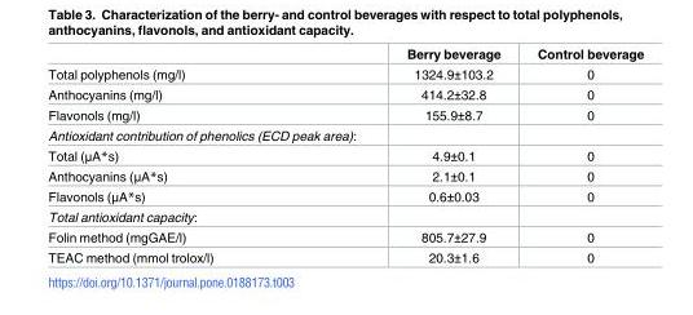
<table><thead><tr><td></td><td>Berry beverage</td><td>Control beverage</td></tr></thead><tbody><tr><td>Total polyphenols (mg/l)</td><td>1324.9±103.2</td><td>0</td></tr><tr><td>Anthocyanins (mg/l)</td><td>414.2±32.8</td><td>0</td></tr><tr><td>Flavonols (mg/l)</td><td>155.9±8.7</td><td>0</td></tr><tr><td colspan="3">Antioxidant contribution of phenolics (ECD peak area):</td></tr><tr><td>Total (μA*s)</td><td>4.9±0.1</td><td>0</td></tr><tr><td>Anthocyanins (μA*s)</td><td>2.1±0.1</td><td>0</td></tr><tr><td>Flavonols (μA*s)</td><td>0.6±0.03</td><td>0</td></tr><tr><td colspan="3">Total antioxidant capacity:</td></tr><tr><td>Folin method (mgGAE/l)</td><td>805.7±27.9</td><td>0</td></tr><tr><td>TEAC method (mmol trolox/l)</td><td>20.3±1.6</td><td>0</td></tr></tbody></table>